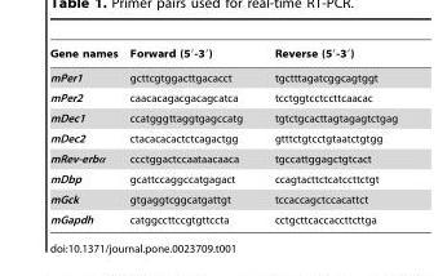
<table><thead><tr><td>Gene names</td><td>Forward (5′-3′)</td><td>Reverse (5′-3′)</td></tr></thead><tbody><tr><td>mPer1</td><td>gcttcgtggacttgacacct</td><td>tgctttagatcggcagtggt</td></tr><tr><td>mPer2</td><td>caacacagacgacagcatca</td><td>tcctggtcctccttcaacac</td></tr><tr><td>mDec1</td><td>ccatgggttaggtgagccatg</td><td>tgtctgcacttagtagagtctgag</td></tr><tr><td>mDec2</td><td>ctacacacactctcagactgg</td><td>gtttctgtcctgtaatctgtgg</td></tr><tr><td>mRev-erbα</td><td>ccctggactccaataacaaca</td><td>tgccattggagctgtcact</td></tr><tr><td>mDbp</td><td>gcattccaggccatgagact</td><td>ccagtacttctcatccttctgt</td></tr><tr><td>mGck</td><td>gtgaggtcggcatgattgt</td><td>tccaccagctccacattct</td></tr><tr><td>mGapdh</td><td>catggccttccgtgttccta</td><td>cctgcttcaccaccttcttga</td></tr></tbody></table>